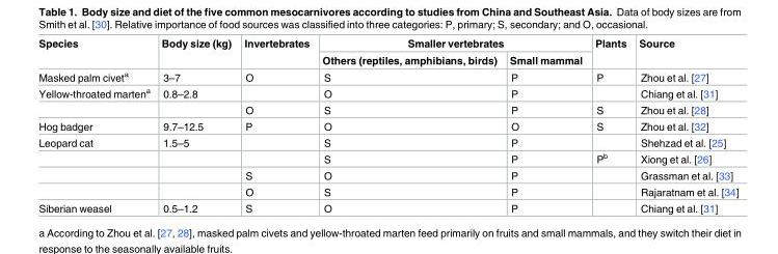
<table><thead><tr><td rowspan="2">Species</td><td rowspan="2">Body size (kg)</td><td rowspan="2">Invertebrates</td><td colspan="2">Smaller vertebrates</td><td rowspan="2">Plants</td><td rowspan="2">Source</td></tr><tr><td>Others (reptiles, amphibians, birds)</td><td>Small mammal</td></tr></thead><tbody><tr><td>Masked palm civet<sup>a</sup></td><td>3–7</td><td>O</td><td>S</td><td>P</td><td>P</td><td>Zhou et al. [27]</td></tr><tr><td rowspan="2">Yellow-throated marten<sup>a</sup></td><td>0.8–2.8</td><td></td><td>O</td><td>P</td><td></td><td>Chiang et al. [31]</td></tr><tr><td></td><td>O</td><td>S</td><td>P</td><td>S</td><td>Zhou et al. [28]</td></tr><tr><td>Hog badger</td><td>9.7–12.5</td><td>P</td><td>O</td><td>O</td><td>S</td><td>Zhou et al. [32]</td></tr><tr><td rowspan="4">Leopard cat</td><td>1.5–5</td><td></td><td>S</td><td>P</td><td></td><td>Shehzad et al. [25]</td></tr><tr><td></td><td></td><td>S</td><td>P</td><td>P<sup>b</sup></td><td>Xiong et al. [26]</td></tr><tr><td></td><td>S</td><td>O</td><td>P</td><td></td><td>Grassman et al. [33]</td></tr><tr><td></td><td>O</td><td>S</td><td>P</td><td></td><td>Rajaratnam et al. [34]</td></tr><tr><td>Siberian weasel</td><td>0.5–1.2</td><td>S</td><td>O</td><td>P</td><td></td><td>Chiang et al. [31]</td></tr></tbody></table>